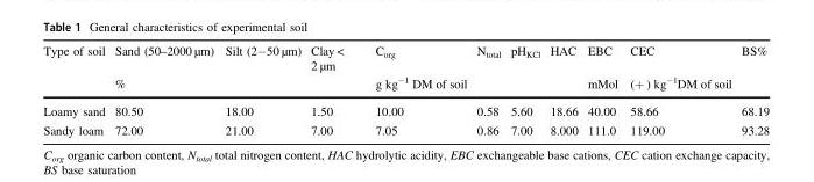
<table><thead><tr><td rowspan="2">Type of soil</td><td rowspan="2">Sand (50–2000 µm) %</td><td rowspan="2">Silt (2−50 µm)</td><td rowspan="2">Clay &lt; 2 µm</td><td rowspan="2">C<sub>org</sub> g kg<sup>−1</sup> DM of soil</td><td rowspan="2">N<sub>total</sub></td><td rowspan="2">pH<sub>KCl</sub></td><td rowspan="2">HAC</td><td rowspan="2">EBC mMol</td><td rowspan="2">CEC (+ ) kg<sup>−1</sup>DM of soil</td><td rowspan="2">BS%</td></tr><tr></tr></thead><tbody><tr><td>Loamy sand</td><td>80.50</td><td>18.00</td><td>1.50</td><td>10.00</td><td>0.58</td><td>5.60</td><td>18.66</td><td>40.00</td><td>58.66</td><td>68.19</td></tr><tr><td>Sandy loam</td><td>72.00</td><td>21.00</td><td>7.00</td><td>7.05</td><td>0.86</td><td>7.00</td><td>8.000</td><td>111.0</td><td>119.00</td><td>93.28</td></tr></tbody></table>